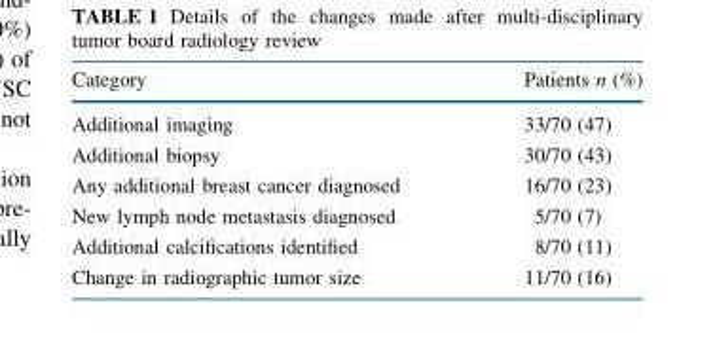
<table><thead><tr><td>Category</td><td>Patients n (%)</td></tr></thead><tbody><tr><td>Additional imaging</td><td>33/70 (47)</td></tr><tr><td>Additional biopsy</td><td>30/70 (43)</td></tr><tr><td>Any additional breast cancer diagnosed</td><td>16/70 (23)</td></tr><tr><td>New lymph node metastasis diagnosed</td><td>5/70 (7)</td></tr><tr><td>Additional calcifications identified</td><td>8/70 (11)</td></tr><tr><td>Change in radiographic tumor size</td><td>11/70 (16)</td></tr></tbody></table>